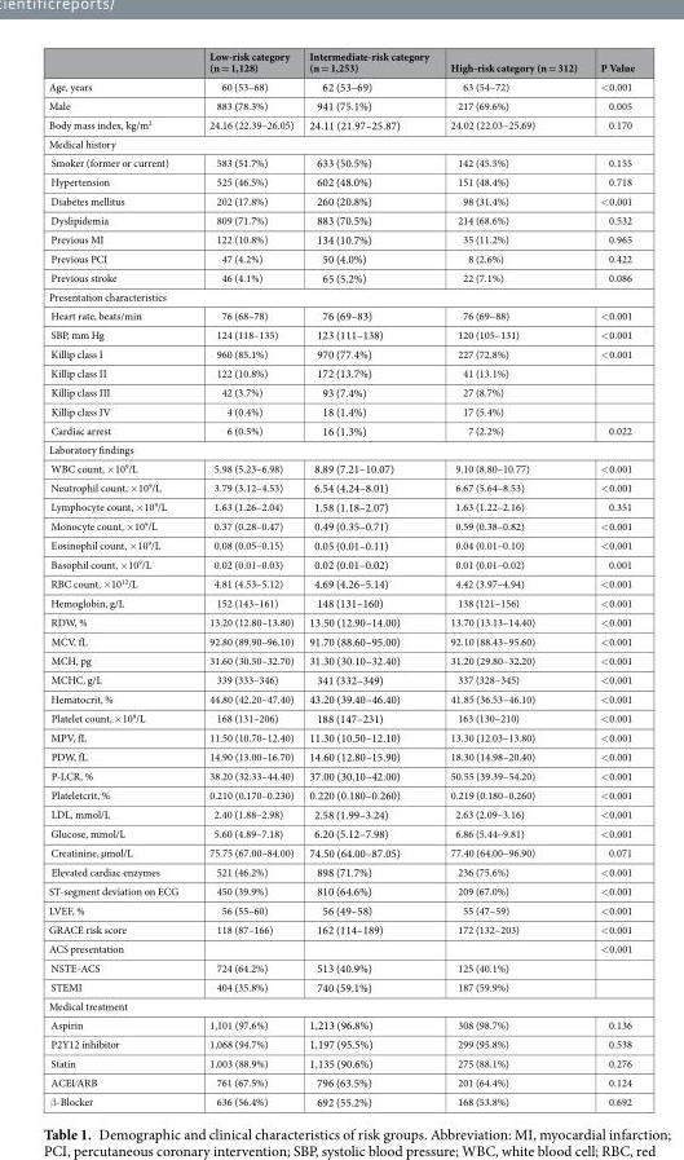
<table><thead><tr><td></td><td>Low-risk category (n = 1,128)</td><td>Intermediate-risk category (n = 1,253)</td><td>High-risk category (n = 312)</td><td>P Value</td></tr></thead><tbody><tr><td>Age, years</td><td>60 (53–68)</td><td>62 (53–69)</td><td>63 (54–72)</td><td>&lt;0.001</td></tr><tr><td>Male</td><td>883 (78.3%)</td><td>941 (75.1%)</td><td>217 (69.6%)</td><td>0.005</td></tr><tr><td>Body mass index, kg/m<sup>2</sup></td><td>24.16 (22.39–26.05)</td><td>24.11 (21.97–25.87)</td><td>24.02 (22.03–25.69)</td><td>0.170</td></tr><tr><td colspan="5">Medical history</td></tr><tr><td>Smoker (former or current)</td><td>583 (51.7%)</td><td>633 (50.5%)</td><td>142 (45.5%)</td><td>0.155</td></tr><tr><td>Hypertension</td><td>525 (46.5%)</td><td>602 (48.0%)</td><td>151 (48.4%)</td><td>0.718</td></tr><tr><td>Diabetes mellitus</td><td>202 (17.8%)</td><td>260 (20.8%)</td><td>98 (31.4%)</td><td>&lt;0.001</td></tr><tr><td>Dyslipidemia</td><td>809 (71.7%)</td><td>883 (70.5%)</td><td>214 (68.6%)</td><td>0.532</td></tr><tr><td>Previous MI</td><td>122 (10.8%)</td><td>134 (10.7%)</td><td>35 (11.2%)</td><td>0.965</td></tr><tr><td>Previous PCI</td><td>47 (4.2%)</td><td>50 (4.0%)</td><td>8 (2.6%)</td><td>0.422</td></tr><tr><td>Previous stroke</td><td>46 (4.1%)</td><td>65 (5.2%)</td><td>22 (7.1%)</td><td>0.086</td></tr><tr><td colspan="5">Presentation characteristics</td></tr><tr><td>Heart rate, beats/min</td><td>76 (68–78)</td><td>76 (69–83)</td><td>76 (69–88)</td><td>&lt;0.001</td></tr><tr><td>SBP, mm Hg</td><td>124 (118–135)</td><td>123 (111–138)</td><td>120 (105–131)</td><td>&lt;0.001</td></tr><tr><td>Killip class I</td><td>960 (85.1%)</td><td>970 (77.4%)</td><td>227 (72.8%)</td><td>&lt;0.001</td></tr><tr><td>Killip class II</td><td>122 (10.8%)</td><td>172 (13.7%)</td><td>41 (13.1%)</td><td></td></tr><tr><td>Killip class III</td><td>42 (3.7%)</td><td>93 (7.4%)</td><td>27 (8.7%)</td><td></td></tr><tr><td>Killip class IV</td><td>4 (0.4%)</td><td>18 (1.4%)</td><td>17 (5.4%)</td><td></td></tr><tr><td>Cardiac arrest</td><td>6 (0.5%)</td><td>16 (1.3%)</td><td>7 (2.2%)</td><td>0.022</td></tr><tr><td colspan="5">Laboratory findings</td></tr><tr><td>WBC count, ×10<sup>9</sup>/L</td><td>5.98 (5.23–6.98)</td><td>8.89 (7.21–10.07)</td><td>9.10 (8.80–10.77)</td><td>&lt;0.001</td></tr><tr><td>Neutrophil count, ×10<sup>9</sup>/L</td><td>3.79 (3.12–4.53)</td><td>6.54 (4.24–8.01)</td><td>6.67 (5.64–8.53)</td><td>&lt;0.001</td></tr><tr><td>Lymphocyte count, ×10<sup>9</sup>/L</td><td>1.63 (1.26–2.04)</td><td>1.58 (1.18–2.07)</td><td>1.63 (1.22–2.16)</td><td>0.351</td></tr><tr><td>Monocyte count, ×10<sup>9</sup>/L</td><td>0.37 (0.28–0.47)</td><td>0.49 (0.35–0.71)</td><td>0.59 (0.38–0.82)</td><td>&lt;0.001</td></tr><tr><td>Eosinophil count, ×10<sup>9</sup>/L</td><td>0.08 (0.05–0.15)</td><td>0.05 (0.01–0.11)</td><td>0.04 (0.01–0.10)</td><td>&lt;0.001</td></tr><tr><td>Basophil count, ×10<sup>9</sup>/L</td><td>0.02 (0.01–0.03)</td><td>0.02 (0.01–0.02)</td><td>0.01 (0.01–0.02)</td><td>0.001</td></tr><tr><td>RBC count, ×10<sup>12</sup>/L</td><td>4.81 (4.53–5.12)</td><td>4.69 (4.26–5.14)</td><td>4.42 (3.97–4.94)</td><td>&lt;0.001</td></tr><tr><td>Hemoglobin, g/L</td><td>152 (143–161)</td><td>148 (131–160)</td><td>138 (121–156)</td><td>&lt;0.001</td></tr><tr><td>RDW, %</td><td>13.20 (12.80–13.80)</td><td>13.50 (12.90–14.00)</td><td>13.70 (13.13–14.40)</td><td>&lt;0.001</td></tr><tr><td>MCV, fL</td><td>92.80 (89.90–96.10)</td><td>91.70 (88.60–95.00)</td><td>92.10 (88.43–95.60)</td><td>&lt;0.001</td></tr><tr><td>MCH, pg</td><td>31.60 (30.50–32.70)</td><td>31.30 (30.10–32.40)</td><td>31.20 (29.80–32.20)</td><td>&lt;0.001</td></tr><tr><td>MCHC, g/L</td><td>339 (333–346)</td><td>341 (332–349)</td><td>337 (328–345)</td><td>&lt;0.001</td></tr><tr><td>Hematocrit, %</td><td>44.80 (42.20–47.40)</td><td>43.20 (39.40–46.40)</td><td>41.85 (36.53–46.10)</td><td>&lt;0.001</td></tr><tr><td>Platelet count, ×10<sup>9</sup>/L</td><td>168 (131–206)</td><td>188 (147–231)</td><td>163 (130–210)</td><td>&lt;0.001</td></tr><tr><td>MPV, fL</td><td>11.50 (10.70–12.40)</td><td>11.30 (10.50–12.10)</td><td>13.30 (12.03–13.80)</td><td>&lt;0.001</td></tr><tr><td>PDW, fL</td><td>14.90 (13.00–16.70)</td><td>14.60 (12.80–15.90)</td><td>18.30 (14.98–20.40)</td><td>&lt;0.001</td></tr><tr><td>P-LCR, %</td><td>38.20 (32.33–44.40)</td><td>37.00 (30.10–42.00)</td><td>50.55 (39.39–54.20)</td><td>&lt;0.001</td></tr><tr><td>Plateletcrit, %</td><td>0.210 (0.170–0.230)</td><td>0.220 (0.180–0.260)</td><td>0.219 (0.180–0.260)</td><td>&lt;0.001</td></tr><tr><td>LDL, mmol/L</td><td>2.40 (1.88–2.98)</td><td>2.58 (1.99–3.24)</td><td>2.63 (2.09–3.16)</td><td>&lt;0.001</td></tr><tr><td>Glucose, mmol/L</td><td>5.60 (4.89–7.18)</td><td>6.20 (5.12–7.98)</td><td>6.86 (5.44–9.81)</td><td>&lt;0.001</td></tr><tr><td>Creatinine, µmol/L</td><td>75.75 (67.00–84.00)</td><td>74.50 (64.00–87.05)</td><td>77.40 (64.00–96.90)</td><td>0.071</td></tr><tr><td>Elevated cardiac enzymes</td><td>521 (46.2%)</td><td>898 (71.7%)</td><td>236 (75.6%)</td><td>&lt;0.001</td></tr><tr><td>ST-segment deviation on ECG</td><td>450 (39.9%)</td><td>810 (64.6%)</td><td>209 (67.0%)</td><td>&lt;0.001</td></tr><tr><td>LVEF, %</td><td>56 (55–60)</td><td>56 (49–58)</td><td>55 (47–59)</td><td>&lt;0.001</td></tr><tr><td>GRACE risk score</td><td>118 (87–166)</td><td>162 (114–189)</td><td>172 (132–203)</td><td>&lt;0.001</td></tr><tr><td>ACS presentation</td><td></td><td></td><td></td><td>&lt;0.001</td></tr><tr><td>NSTE-ACS</td><td>724 (64.2%)</td><td>513 (40.9%)</td><td>125 (40.1%)</td><td></td></tr><tr><td>STEMI</td><td>404 (35.8%)</td><td>740 (59.1%)</td><td>187 (59.9%)</td><td></td></tr><tr><td colspan="5">Medical treatment</td></tr><tr><td>Aspirin</td><td>1,101 (97.6%)</td><td>1,213 (96.8%)</td><td>308 (98.7%)</td><td>0.136</td></tr><tr><td>P2Y12 inhibitor</td><td>1,068 (94.7%)</td><td>1,197 (95.5%)</td><td>299 (95.8%)</td><td>0.538</td></tr><tr><td>Statin</td><td>1,003 (88.9%)</td><td>1,135 (90.6%)</td><td>275 (88.1%)</td><td>0.276</td></tr><tr><td>ACEI⁄ARB</td><td>761 (67.5%)</td><td>796 (63.5%)</td><td>201 (64.4%)</td><td>0.124</td></tr><tr><td>β-Blocker</td><td>636 (56.4%)</td><td>692 (55.2%)</td><td>168 (53.8%)</td><td>0.692</td></tr></tbody></table>